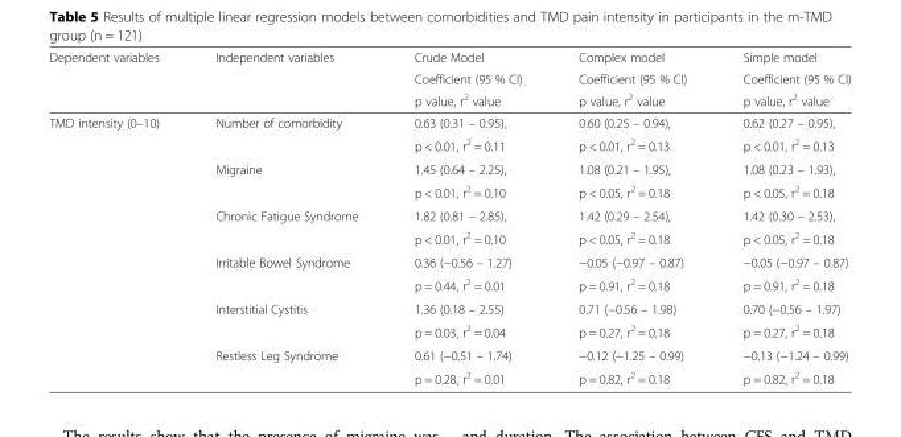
<table><thead><tr><td rowspan="3">Dependent variables</td><td rowspan="3">Independent variables</td><td rowspan="3">Crude Model Coefficient (95 % CI) p value, r<sup>2</sup> value</td><td rowspan="3">Complex model Coefficient (95 % CI) p value, r<sup>2</sup> value</td><td rowspan="3">Simple model Coefficient (95 % CI) p value, r<sup>2</sup> value</td></tr><tr></tr><tr></tr></thead><tbody><tr><td rowspan="12">TMD intensity (0–10)</td><td rowspan="2">Number of comorbidity</td><td>0.63 (0.31 – 0.95),</td><td>0.60 (0.25 – 0.94),</td><td>0.62 (0.27 – 0.95),</td></tr><tr><td>p &lt; 0.01, r<sup>2</sup> = 0.11</td><td>p &lt; 0.01, r<sup>2</sup> = 0.13</td><td>p &lt; 0.01, r<sup>2</sup> = 0.13</td></tr><tr><td rowspan="2">Migraine</td><td>1.45 (0.64 – 2.25),</td><td>1.08 (0.21 – 1.95),</td><td>1.08 (0.23 – 1.93),</td></tr><tr><td>p &lt; 0.01, r<sup>2</sup> = 0.10</td><td>p &lt; 0.05, r<sup>2</sup> = 0.18</td><td>p &lt; 0.05, r<sup>2</sup> = 0.18</td></tr><tr><td rowspan="2">Chronic Fatigue Syndrome</td><td>1.82 (0.81 – 2.85),</td><td>1.42 (0.29 – 2.54),</td><td>1.42 (0.30 – 2.53),</td></tr><tr><td>p &lt; 0.01, r<sup>2</sup> = 0.10</td><td>p &lt; 0.05, r<sup>2</sup> = 0.18</td><td>p &lt; 0.05, r<sup>2</sup> = 0.18</td></tr><tr><td rowspan="2">Irritable Bowel Syndrome</td><td>0.36 (−0.56 – 1.27)</td><td>−0.05 (−0.97 – 0.87)</td><td>−0.05 (−0.97 – 0.87)</td></tr><tr><td>p = 0.44, r<sup>2</sup> = 0.01</td><td>p = 0.91, r<sup>2</sup> = 0.18</td><td>p = 0.91, r<sup>2</sup> = 0.18</td></tr><tr><td rowspan="2">Interstitial Cystitis</td><td>1.36 (0.18 – 2.55)</td><td>0.71 (−0.56 – 1.98)</td><td>0.70 (−0.56 – 1.97)</td></tr><tr><td>p = 0.03, r<sup>2</sup> = 0.04</td><td>p = 0.27, r<sup>2</sup> = 0.18</td><td>p = 0.27, r<sup>2</sup> = 0.18</td></tr><tr><td rowspan="2">Restless Leg Syndrome</td><td>0.61 (−0.51 – 1.74)</td><td>−0.12 (−1.25 – 0.99)</td><td>−0.13 (−1.24 – 0.99)</td></tr><tr><td>p = 0.28, r<sup>2</sup> = 0.01</td><td>p = 0.82, r<sup>2</sup> = 0.18</td><td>p = 0.82, r<sup>2</sup> = 0.18</td></tr></tbody></table>